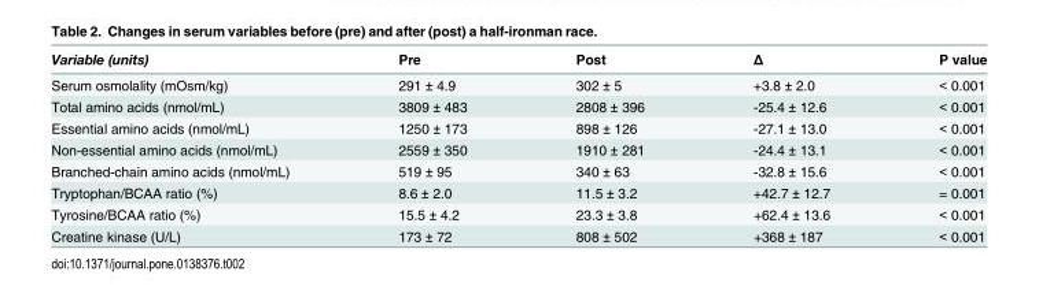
<table><thead><tr><td>Variable (units)</td><td>Pre</td><td>Post</td><td>Δ</td><td>P value</td></tr></thead><tbody><tr><td>Serum osmolality (mOsm/kg)</td><td>291 ± 4.9</td><td>302 ± 5</td><td>+3.8 ± 2.0</td><td>&lt; 0.001</td></tr><tr><td>Total amino acids (nmol/mL)</td><td>3809 ± 483</td><td>2808 ± 396</td><td>-25.4 ± 12.6</td><td>&lt; 0.001</td></tr><tr><td>Essential amino acids (nmol/mL)</td><td>1250 ± 173</td><td>898 ± 126</td><td>-27.1 ± 13.0</td><td>&lt; 0.001</td></tr><tr><td>Non-essential amino acids (nmol/mL)</td><td>2559 ± 350</td><td>1910 ± 281</td><td>-24.4 ± 13.1</td><td>&lt; 0.001</td></tr><tr><td>Branched-chain amino acids (nmol/mL)</td><td>519 ± 95</td><td>340 ± 63</td><td>-32.8 ± 15.6</td><td>&lt; 0.001</td></tr><tr><td>Tryptophan/BCAA ratio (%)</td><td>8.6 ± 2.0</td><td>11.5 ± 3.2</td><td>+42.7 ± 12.7</td><td>= 0.001</td></tr><tr><td>Tyrosine/BCAA ratio (%)</td><td>15.5 ± 4.2</td><td>23.3 ± 3.8</td><td>+62.4 ± 13.6</td><td>&lt; 0.001</td></tr><tr><td>Creatine kinase (U/L)</td><td>173 ± 72</td><td>808 ± 502</td><td>+368 ± 187</td><td>&lt; 0.001</td></tr></tbody></table>